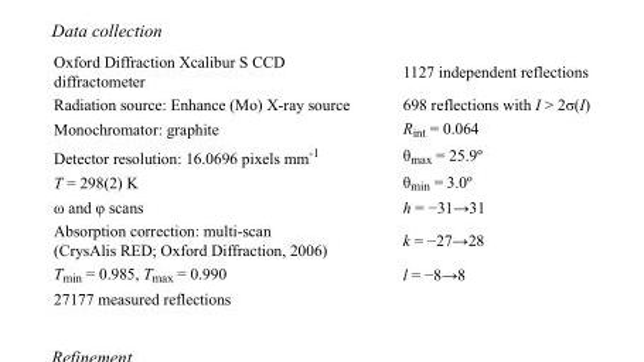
<table><tbody><tr><td>Oxford Diffraction Xcalibur S CCD diffractometer</td><td>1127 independent reflections</td></tr><tr><td>Radiation source: Enhance (Mo) X-ray source</td><td>698 reflections with I &gt; 2σ(I)</td></tr><tr><td>Monochromator: graphite</td><td>R<sub>int</sub> = 0.064</td></tr><tr><td>Detector resolution: 16.0696 pixels mm<sup>-1</sup></td><td>θ<sub>max</sub> = 25.9º</td></tr><tr><td>T = 298(2) K</td><td>θ<sub>min</sub> = 3.0º</td></tr><tr><td>ω and φ scans</td><td>h = −31→31</td></tr><tr><td>Absorption correction: multi-scan (CrysAlis RED; Oxford Diffraction, 2006)</td><td>k = −27→28</td></tr><tr><td>T<sub>min</sub> = 0.985, T<sub>max</sub> = 0.990</td><td>l = −8→8</td></tr><tr><td>27177 measured reflections</td><td></td></tr></tbody></table>